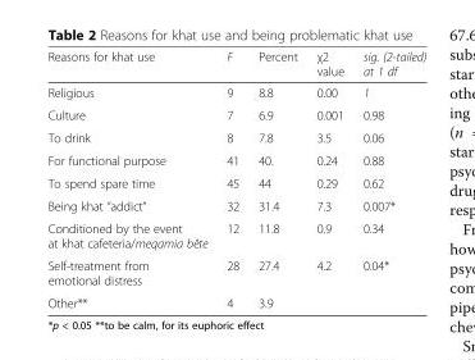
<table><thead><tr><td>Reasons for khat use</td><td>F</td><td>Percent</td><td>χ2 value</td><td>sig. (2-tailed) at 1 df</td></tr></thead><tbody><tr><td>Religious</td><td>9</td><td>8.8</td><td>0.00</td><td>1</td></tr><tr><td>Culture</td><td>7</td><td>6.9</td><td>0.001</td><td>0.98</td></tr><tr><td>To drink</td><td>8</td><td>7.8</td><td>3.5</td><td>0.06</td></tr><tr><td>For functional purpose</td><td>41</td><td>40.</td><td>0.24</td><td>0.88</td></tr><tr><td>To spend spare time</td><td>45</td><td>44</td><td>0.29</td><td>0.62</td></tr><tr><td>Being khat “addict”</td><td>32</td><td>31.4</td><td>7.3</td><td>0.007*</td></tr><tr><td>Conditioned by the event at khat cafeteria/meqamia bête</td><td>12</td><td>11.8</td><td>0.9</td><td>0.34</td></tr><tr><td>Self-treatment from emotional distress</td><td>28</td><td>27.4</td><td>4.2</td><td>0.04*</td></tr><tr><td>Other**</td><td>4</td><td>3.9</td><td></td><td></td></tr></tbody></table>